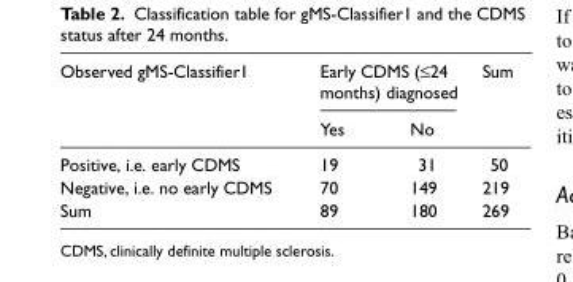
<table><thead><tr><td rowspan="2">Observed gMS-Classifier1</td><td colspan="2">Early CDMS (≤24 months) diagnosed</td><td rowspan="2">Sum</td></tr><tr><td>Yes</td><td>No</td></tr></thead><tbody><tr><td>Positive, i.e. early CDMS</td><td>19</td><td>31</td><td>50</td></tr><tr><td>Negative, i.e. no early CDMS</td><td>70</td><td>149</td><td>219</td></tr><tr><td>Sum</td><td>89</td><td>180</td><td>269</td></tr></tbody></table>